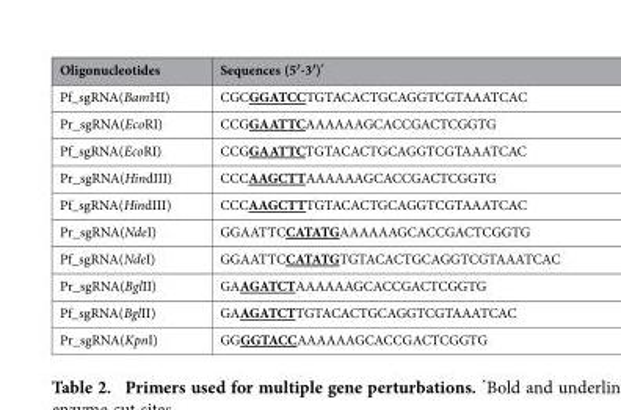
<table><thead><tr><td>Oligonucleotides</td><td>Sequences (5′-3′)*</td></tr></thead><tbody><tr><td>Pf_sgRNA(BamHI)</td><td>CGCGGATCCTGTACACTGCAGGTCGTAAATCAC</td></tr><tr><td>Pr_sgRNA(EcoRI)</td><td>CCGGAATTCAAAAAAGCACCGACTCGGTG</td></tr><tr><td>Pf_sgRNA(EcoRI)</td><td>CCGGAATTCTGTACACTGCAGGTCGTAAATCAC</td></tr><tr><td>Pr_sgRNA(HindIII)</td><td>CCCAAGCTTAAAAAAGCACCGACTCGGTG</td></tr><tr><td>Pf_sgRNA(HindIII)</td><td>CCCAAGCTTTGTACACTGCAGGTCGTAAATCAC</td></tr><tr><td>Pr_sgRNA(NdeI)</td><td>GGAATTCCATATGAAAAAAGCACCGACTCGGTG</td></tr><tr><td>Pf_sgRNA(NdeI)</td><td>GGAATTCCATATGTGTACACTGCAGGTCGTAAATCAC</td></tr><tr><td>Pr_sgRNA(BglII)</td><td>GAAGATCTAAAAAAGCACCGACTCGGTG</td></tr><tr><td>Pf_sgRNA(BglII)</td><td>GAAGATCTTGTACACTGCAGGTCGTAAATCAC</td></tr><tr><td>Pr_sgRNA(KpnI)</td><td>GGGGTACCAAAAAAGCACCGACTCGGTG</td></tr></tbody></table>